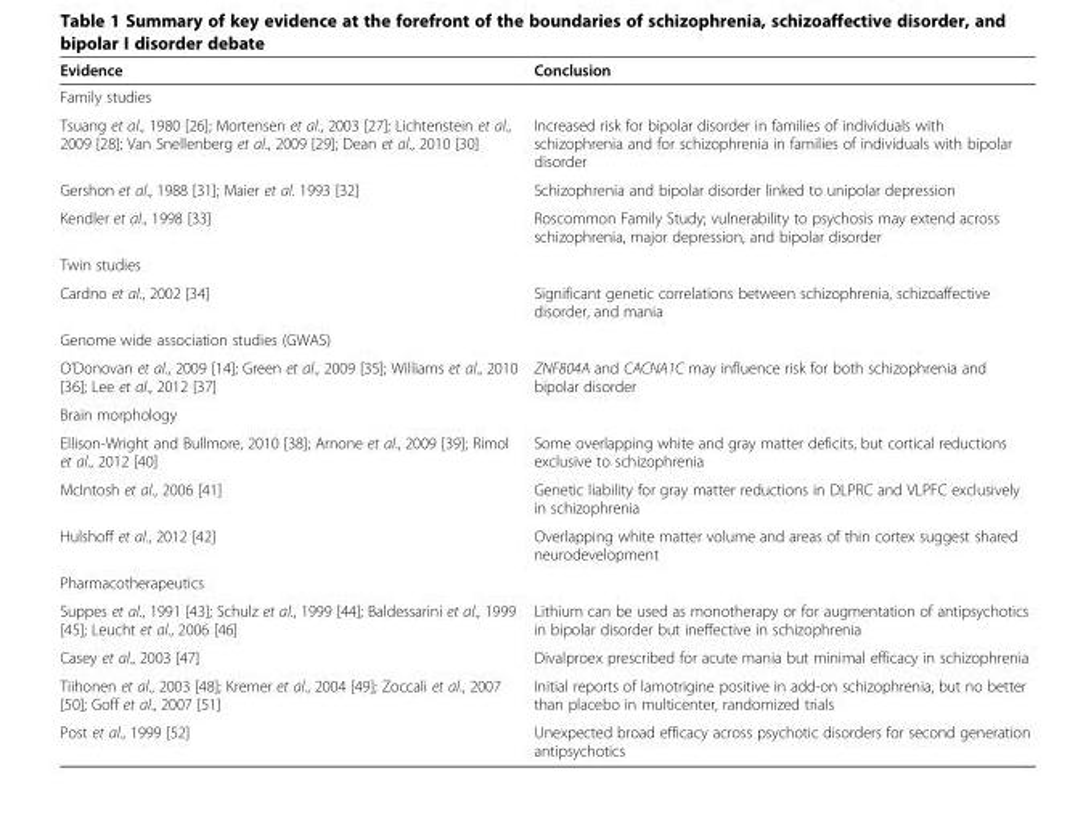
<table><thead><tr><td>Evidence</td><td>Conclusion</td></tr></thead><tbody><tr><td colspan="2">Family studies</td></tr><tr><td>Tsuang et al., 1980 [26]; Mortensen et al., 2003 [27]; Lichtenstein et al., 2009 [28]; Van Snellenberg et al., 2009 [29]; Dean et al., 2010 [30]</td><td>Increased risk for bipolar disorder in families of individuals with schizophrenia and for schizophrenia in families of individuals with bipolar disorder</td></tr><tr><td>Gershon et al., 1988 [31]; Maier et al. 1993 [32]</td><td>Schizophrenia and bipolar disorder linked to unipolar depression</td></tr><tr><td>Kendler et al., 1998 [33]</td><td>Roscommon Family Study; vulnerability to psychosis may extend across schizophrenia, major depression, and bipolar disorder</td></tr><tr><td colspan="2">Twin studies</td></tr><tr><td>Cardno et al., 2002 [34]</td><td>Significant genetic correlations between schizophrenia, schizoaffective disorder, and mania</td></tr><tr><td colspan="2">Genome wide association studies (GWAS)</td></tr><tr><td>O’Donovan et al., 2009 [14]; Green et al., 2009 [35]; Williams et al., 2010 [36]; Lee et al., 2012 [37]</td><td>ZNF804A and CACNA1C may influence risk for both schizophrenia and bipolar disorder</td></tr><tr><td colspan="2">Brain morphology</td></tr><tr><td>Ellison-Wright and Bullmore, 2010 [38]; Arnone et al., 2009 [39]; Rimol et al., 2012 [40]</td><td>Some overlapping white and gray matter deficits, but cortical reductions exclusive to schizophrenia</td></tr><tr><td>McIntosh et al., 2006 [41]</td><td>Genetic liability for gray matter reductions in DLPRC and VLPFC exclusively in schizophrenia</td></tr><tr><td>Hulshoff et al., 2012 [42]</td><td>Overlapping white matter volume and areas of thin cortex suggest shared neurodevelopment</td></tr><tr><td colspan="2">Pharmacotherapeutics</td></tr><tr><td>Suppes et al., 1991 [43]; Schulz et al., 1999 [44]; Baldessarini et al., 1999 [45]; Leucht et al., 2006 [46]</td><td>Lithium can be used as monotherapy or for augmentation of antipsychotics in bipolar disorder but ineffective in schizophrenia</td></tr><tr><td>Casey et al., 2003 [47]</td><td>Divalproex prescribed for acute mania but minimal efficacy in schizophrenia</td></tr><tr><td>Tiihonen et al., 2003 [48]; Kremer et al., 2004 [49]; Zoccali et al., 2007 [50]; Goff et al., 2007 [51]</td><td>Initial reports of lamotrigine positive in add-on schizophrenia, but no better than placebo in multicenter, randomized trials</td></tr><tr><td>Post et al., 1999 [52]</td><td>Unexpected broad efficacy across psychotic disorders for second generation antipsychotics</td></tr></tbody></table>